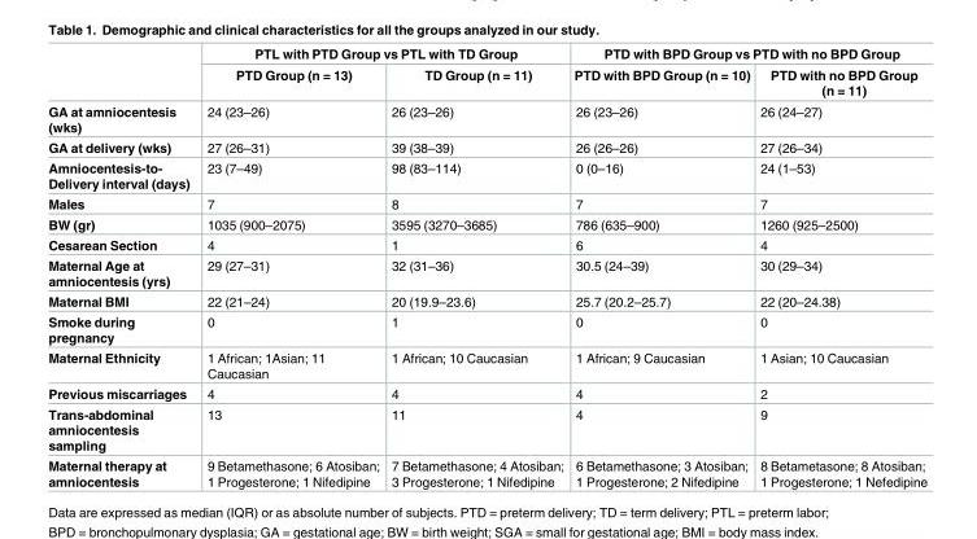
<table><thead><tr><td rowspan="2"></td><td colspan="2">PTL with PTD Group vs PTL with TD Group</td><td colspan="2">PTD with BPD Group vs PTD with no BPD Group</td></tr><tr><td>PTD Group (n = 13)</td><td>TD Group (n = 11)</td><td>PTD with BPD Group (n = 10)</td><td>PTD with no BPD Group (n = 11)</td></tr></thead><tbody><tr><td>GA at amniocentesis (wks)</td><td>24 (23–26)</td><td>26 (23–26)</td><td>26 (23–26)</td><td>26 (24–27)</td></tr><tr><td>GA at delivery (wks)</td><td>27 (26–31)</td><td>39 (38–39)</td><td>26 (26–26)</td><td>27 (26–34)</td></tr><tr><td>Amniocentesis-to- Delivery interval (days)</td><td>23 (7–49)</td><td>98 (83–114)</td><td>0 (0–16)</td><td>24 (1–53)</td></tr><tr><td>Males</td><td>7</td><td>8</td><td>7</td><td>7</td></tr><tr><td>BW (gr)</td><td>1035 (900–2075)</td><td>3595 (3270–3685)</td><td>786 (635–900)</td><td>1260 (925–2500)</td></tr><tr><td>Cesarean Section</td><td>4</td><td>1</td><td>6</td><td>4</td></tr><tr><td>Maternal Age at amniocentesis (yrs)</td><td>29 (27–31)</td><td>32 (31–36)</td><td>30.5 (24–39)</td><td>30 (29–34)</td></tr><tr><td>Maternal BMI</td><td>22 (21–24)</td><td>20 (19.9–23.6)</td><td>25.7 (20.2–25.7)</td><td>22 (20–24.38)</td></tr><tr><td>Smoke during pregnancy</td><td>0</td><td>1</td><td>0</td><td>0</td></tr><tr><td>Maternal Ethnicity</td><td>1 African; 1Asian; 11 Caucasian</td><td>1 African; 10 Caucasian</td><td>1 African; 9 Caucasian</td><td>1 Asian; 10 Caucasian</td></tr><tr><td>Previous miscarriages</td><td>4</td><td>4</td><td>4</td><td>2</td></tr><tr><td>Trans-abdominal amniocentesis sampling</td><td>13</td><td>11</td><td>4</td><td>9</td></tr><tr><td>Maternal therapy at amniocentesis</td><td>9 Betamethasone; 6 Atosiban; 1 Progesterone; 1 Nifedipine</td><td>7 Betamethasone; 4 Atosiban; 3 Progesterone; 1 Nifedipine</td><td>6 Betamethasone; 3 Atosiban; 1 Progesterone; 2 Nifedipine</td><td>8 Betametasone; 8 Atosiban; 1 Progesterone; 1 Nefedipine</td></tr></tbody></table>